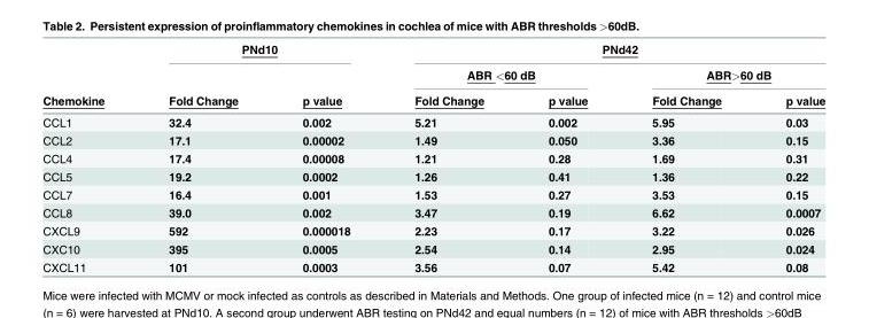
<table><thead><tr><td rowspan="3">Chemokine</td><td colspan="2">PNd10</td><td colspan="4">PNd42</td></tr><tr><td rowspan="2">Fold Change</td><td rowspan="2">p value</td><td colspan="2">ABR &lt;60 dB</td><td colspan="2">ABR&gt;60 dB</td></tr><tr><td>Fold Change</td><td>p value</td><td>Fold Change</td><td>p value</td></tr></thead><tbody><tr><td>CCL1</td><td>32.4</td><td>0.002</td><td>5.21</td><td>0.002</td><td>5.95</td><td>0.03</td></tr><tr><td>CCL2</td><td>17.1</td><td>0.00002</td><td>1.49</td><td>0.050</td><td>3.36</td><td>0.15</td></tr><tr><td>CCL4</td><td>17.4</td><td>0.00008</td><td>1.21</td><td>0.28</td><td>1.69</td><td>0.31</td></tr><tr><td>CCL5</td><td>19.2</td><td>0.0002</td><td>1.26</td><td>0.41</td><td>1.36</td><td>0.22</td></tr><tr><td>CCL7</td><td>16.4</td><td>0.001</td><td>1.53</td><td>0.27</td><td>3.53</td><td>0.15</td></tr><tr><td>CCL8</td><td>39.0</td><td>0.002</td><td>3.47</td><td>0.19</td><td>6.62</td><td>0.0007</td></tr><tr><td>CXCL9</td><td>592</td><td>0.000018</td><td>2.23</td><td>0.17</td><td>3.22</td><td>0.026</td></tr><tr><td>CXC10</td><td>395</td><td>0.0005</td><td>2.54</td><td>0.14</td><td>2.95</td><td>0.024</td></tr><tr><td>CXCL11</td><td>101</td><td>0.0003</td><td>3.56</td><td>0.07</td><td>5.42</td><td>0.08</td></tr></tbody></table>